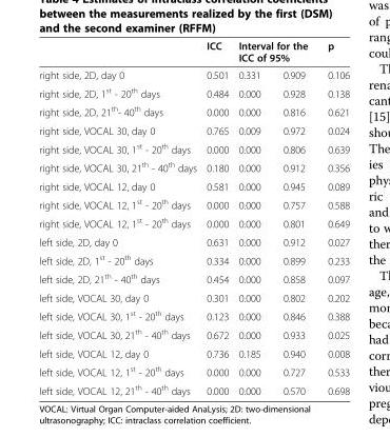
<table><thead><tr><td rowspan="2">right side, 2D, day 0</td><td rowspan="2">ICC 0.501</td><td colspan="2">Interval for the ICC of 95%</td><td rowspan="2">p 0.106</td></tr><tr><td>0.331</td><td>0.909</td></tr></thead><tbody><tr><td>right side, 2D, 1<sup>st</sup> - 20<sup>th</sup> days</td><td>0.484</td><td>0.000</td><td>0.928</td><td>0.138</td></tr><tr><td>right side, 2D, 21<sup>th</sup>- 40<sup>th</sup> days</td><td>0.000</td><td>0.000</td><td>0.816</td><td>0.621</td></tr><tr><td>right side, VOCAL 30, day 0</td><td>0.765</td><td>0.009</td><td>0.972</td><td>0.024</td></tr><tr><td>right side, VOCAL 30, 1<sup>st</sup> - 20<sup>th</sup> days</td><td>0.000</td><td>0.000</td><td>0.806</td><td>0.639</td></tr><tr><td>right side, VOCAL 30, 21<sup>th</sup> - 40<sup>th</sup> days</td><td>0.180</td><td>0.000</td><td>0.912</td><td>0.356</td></tr><tr><td>right side, VOCAL 12, day 0</td><td>0.581</td><td>0.000</td><td>0.945</td><td>0.089</td></tr><tr><td>right side, VOCAL 12, 1<sup>st</sup> - 20<sup>th</sup> days</td><td>0.000</td><td>0.000</td><td>0.757</td><td>0.588</td></tr><tr><td>right side, VOCAL 12, 1<sup>st</sup> - 20<sup>th</sup> days</td><td>0.000</td><td>0.000</td><td>0.801</td><td>0.649</td></tr><tr><td>left side, 2D, day 0</td><td>0.631</td><td>0.000</td><td>0.912</td><td>0.027</td></tr><tr><td>left side, 2D, 1<sup>st</sup> - 20<sup>th</sup> days</td><td>0.334</td><td>0.000</td><td>0.899</td><td>0.233</td></tr><tr><td>left side, 2D, 21<sup>th</sup> - 40<sup>th</sup> days</td><td>0.454</td><td>0.000</td><td>0.858</td><td>0.097</td></tr><tr><td>left side, VOCAL 30, day 0</td><td>0.301</td><td>0.000</td><td>0.802</td><td>0.202</td></tr><tr><td>left side, VOCAL 30, 1<sup>st</sup> - 20<sup>th</sup> days</td><td>0.123</td><td>0.000</td><td>0.846</td><td>0.388</td></tr><tr><td>left side, VOCAL 30, 21<sup>th</sup> - 40<sup>th</sup> days</td><td>0.672</td><td>0.000</td><td>0.933</td><td>0.025</td></tr><tr><td>left side, VOCAL 12, day 0</td><td>0.736</td><td>0.185</td><td>0.940</td><td>0.008</td></tr><tr><td>left side, VOCAL 12, 1<sup>st</sup> - 20<sup>th</sup> days</td><td>0.000</td><td>0.000</td><td>0.727</td><td>0.533</td></tr><tr><td>left side, VOCAL 12, 21<sup>th</sup> - 40<sup>th</sup> days</td><td>0.000</td><td>0.000</td><td>0.570</td><td>0.698</td></tr></tbody></table>